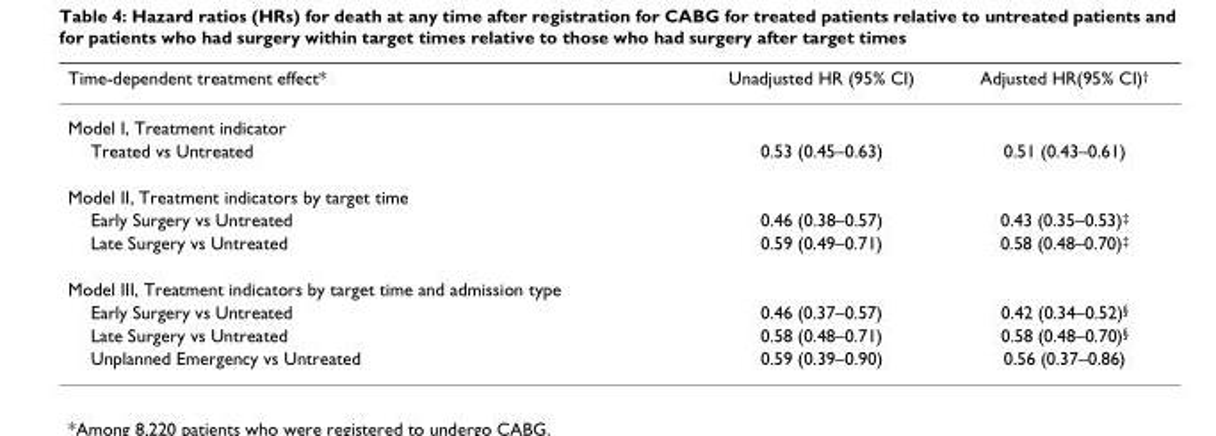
<table><thead><tr><td>Time-dependent treatment effect*</td><td>Unadjusted HR (95% CI)</td><td>Adjusted HR(95% CI)<sup>†</sup></td></tr></thead><tbody><tr><td colspan="3">Model I, Treatment indicator</td></tr><tr><td>Treated vs Untreated</td><td>0.53 (0.45–0.63)</td><td>0.51 (0.43–0.61)</td></tr><tr><td colspan="3">Model II, Treatment indicators by target time</td></tr><tr><td>Early Surgery vs Untreated</td><td>0.46 (0.38–0.57)</td><td>0.43 (0.35–0.53)<sup>‡</sup></td></tr><tr><td>Late Surgery vs Untreated</td><td>0.59 (0.49–0.71)</td><td>0.58 (0.48–0.70)<sup>‡</sup></td></tr><tr><td colspan="3">Model III, Treatment indicators by target time and admission type</td></tr><tr><td>Early Surgery vs Untreated</td><td>0.46 (0.37–0.57)</td><td>0.42 (0.34–0.52)<sup>§</sup></td></tr><tr><td>Late Surgery vs Untreated</td><td>0.58 (0.48–0.71)</td><td>0.58 (0.48–0.70)<sup>§</sup></td></tr><tr><td>Unplanned Emergency vs Untreated</td><td>0.59 (0.39–0.90)</td><td>0.56 (0.37–0.86)</td></tr></tbody></table>